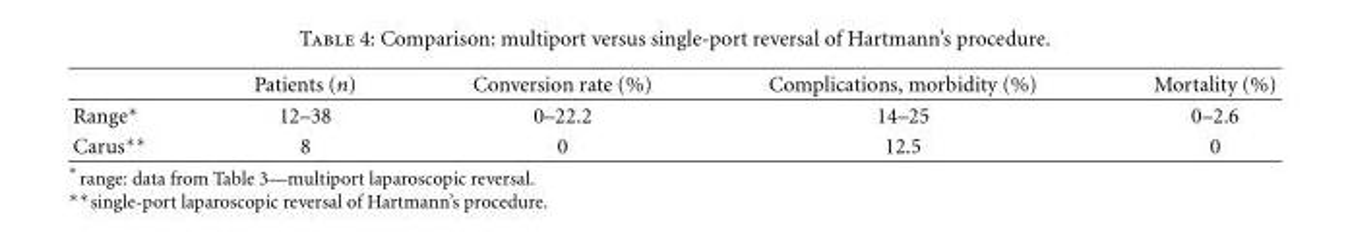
<table><thead><tr><td></td><td>Patients (n)</td><td>Conversion rate (%)</td><td>Complications, morbidity (%)</td><td>Mortality (%)</td></tr></thead><tbody><tr><td>Range∗</td><td>12–38</td><td>0–22.2</td><td>14–25</td><td>0–2.6</td></tr><tr><td>Carus∗∗</td><td>8</td><td>0</td><td>12.5</td><td>0</td></tr></tbody></table>